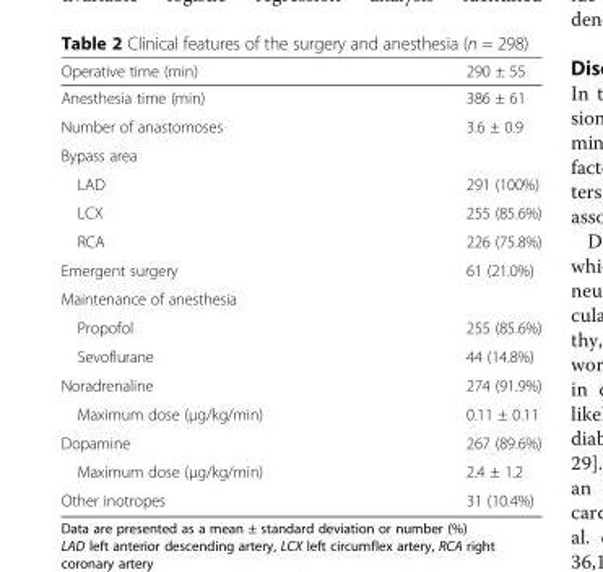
<table><thead><tr><td>Operative time (min)</td><td>290 ± 55</td></tr></thead><tbody><tr><td>Anesthesia time (min)</td><td>386 ± 61</td></tr><tr><td>Number of anastomoses</td><td>3.6 ± 0.9</td></tr><tr><td colspan="2">Bypass area</td></tr><tr><td>LAD</td><td>291 (100%)</td></tr><tr><td>LCX</td><td>255 (85.6%)</td></tr><tr><td>RCA</td><td>226 (75.8%)</td></tr><tr><td>Emergent surgery</td><td>61 (21.0%)</td></tr><tr><td colspan="2">Maintenance of anesthesia</td></tr><tr><td>Propofol</td><td>255 (85.6%)</td></tr><tr><td>Sevoflurane</td><td>44 (14.8%)</td></tr><tr><td>Noradrenaline</td><td>274 (91.9%)</td></tr><tr><td>Maximum dose (μg/kg/min)</td><td>0.11 ± 0.11</td></tr><tr><td>Dopamine</td><td>267 (89.6%)</td></tr><tr><td>Maximum dose (μg/kg/min)</td><td>2.4 ± 1.2</td></tr><tr><td>Other inotropes</td><td>31 (10.4%)</td></tr></tbody></table>